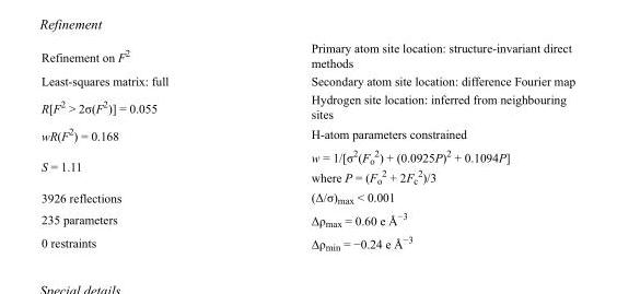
<table><tbody><tr><td>Refinement on F<sup>2</sup></td><td>Primary atom site location: structure-invariant direct methods</td></tr><tr><td>Least-squares matrix: full</td><td>Secondary atom site location: difference Fourier map</td></tr><tr><td>R[F<sup>2</sup> &gt; 2σ(F<sup>2</sup>)] = 0.055</td><td>Hydrogen site location: inferred from neighbouring sites</td></tr><tr><td>wR(F<sup>2</sup>) = 0.168</td><td>H-atom parameters constrained</td></tr><tr><td>S = 1.11</td><td>w = 1/[σ<sup>2</sup>(F<sub>o</sub> <sup>2</sup>) + (0.0925P)<sup>2</sup> + 0.1094P] where P = (F<sub>o</sub> <sup>2</sup> + 2F<sub>c</sub> <sup>2</sup>)/3</td></tr><tr><td>3926 reflections</td><td>(Δ/σ)<sub>max</sub> &lt; 0.001</td></tr><tr><td>235 parameters</td><td>Δρ<sub>max</sub> = 0.60 e Å<sup>−3</sup></td></tr><tr><td>0 restraints</td><td>Δρ<sub>min</sub> = −0.24 e Å<sup>−3</sup></td></tr></tbody></table>